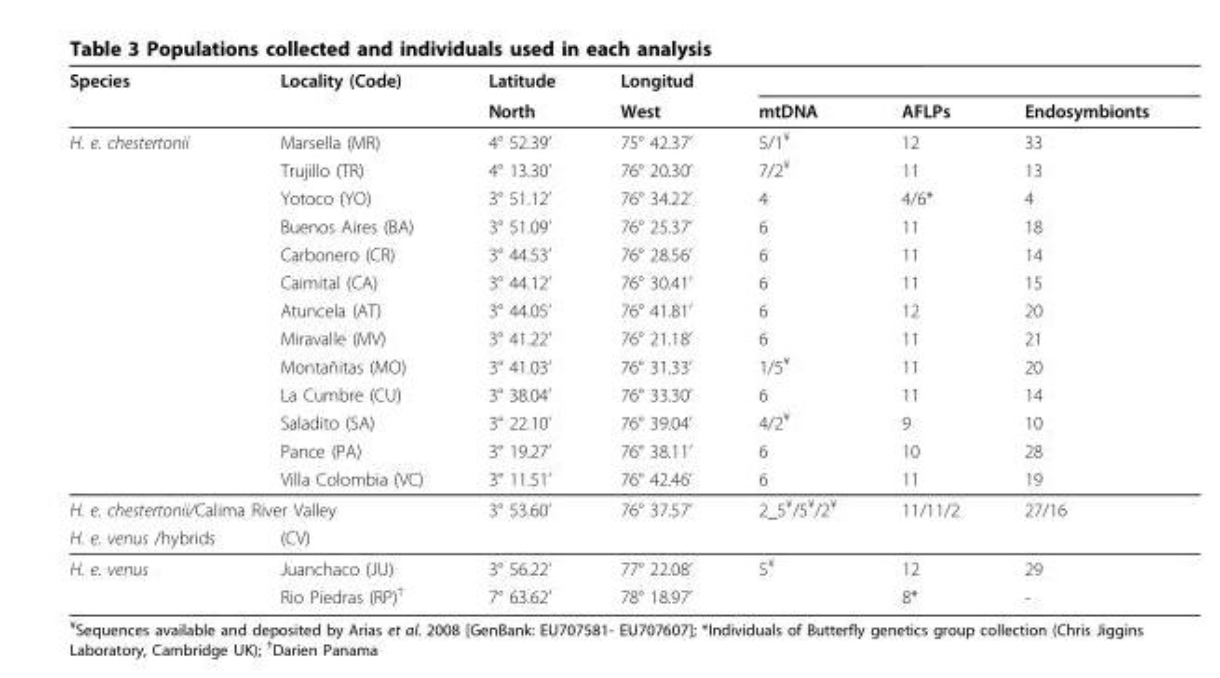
<table><thead><tr><td rowspan="2">Species</td><td rowspan="2">Locality (Code)</td><td rowspan="2">Latitude North</td><td rowspan="2">Longitud West</td><td rowspan="2">mtDNA</td><td rowspan="2">AFLPs</td><td rowspan="2">Endosymbionts</td></tr><tr></tr></thead><tbody><tr><td rowspan="13">H. e. chestertonii</td><td>Marsella (MR)</td><td>4° 52.39’</td><td>75° 42.37’</td><td>5/1<sup>¥</sup></td><td>12</td><td>33</td></tr><tr><td>Trujillo (TR)</td><td>4° 13.30’</td><td>76° 20.30’</td><td>7/2<sup>¥</sup></td><td>11</td><td>13</td></tr><tr><td>Yotoco (YO)</td><td>3° 51.12’</td><td>76° 34.22’</td><td>4</td><td>4/6*</td><td>4</td></tr><tr><td>Buenos Aires (BA)</td><td>3° 51.09’</td><td>76° 25.37’</td><td>6</td><td>11</td><td>18</td></tr><tr><td>Carbonero (CR)</td><td>3° 44.53’</td><td>76° 28.56’</td><td>6</td><td>11</td><td>14</td></tr><tr><td>Caimital (CA)</td><td>3° 44.12’</td><td>76° 30.41’</td><td>6</td><td>11</td><td>15</td></tr><tr><td>Atuncela (AT)</td><td>3° 44.05’</td><td>76° 41.81’</td><td>6</td><td>12</td><td>20</td></tr><tr><td>Miravalle (MV)</td><td>3° 41.22’</td><td>76° 21.18’</td><td>6</td><td>11</td><td>21</td></tr><tr><td>Montañitas (MO)</td><td>3° 41.03’</td><td>76° 31.33’</td><td>1/5<sup>¥</sup></td><td>11</td><td>20</td></tr><tr><td>La Cumbre (CU)</td><td>3° 38.04’</td><td>76° 33.30’</td><td>6</td><td>11</td><td>14</td></tr><tr><td>Saladito (SA)</td><td>3° 22.10’</td><td>76° 39.04’</td><td>4/2<sup>¥</sup></td><td>9</td><td>10</td></tr><tr><td>Pance (PA)</td><td>3° 19.27’</td><td>76° 38.11’</td><td>6</td><td>10</td><td>28</td></tr><tr><td>Villa Colombia (VC)</td><td>3° 11.51’</td><td>76° 42.46’</td><td>6</td><td>11</td><td>19</td></tr><tr><td colspan="2">H. e. chestertonii/Calima River Valley</td><td>3° 53.60’</td><td>76° 37.57’</td><td>2_5<sup>¥</sup>/5<sup>¥</sup>/2<sup>¥</sup></td><td>11/11/2</td><td>27/16</td></tr><tr><td>H. e. venus /hybrids</td><td>(CV)</td><td></td><td></td><td></td><td></td><td></td></tr><tr><td rowspan="2">H. e. venus</td><td>Juanchaco (JU)</td><td>3° 56.22’</td><td>77° 22.08’</td><td>5<sup>¥</sup></td><td>12</td><td>29</td></tr><tr><td>Rio Piedras (RP)<sup>†</sup></td><td>7° 63.62’</td><td>78° 18.97’</td><td></td><td>8*</td><td>-</td></tr></tbody></table>